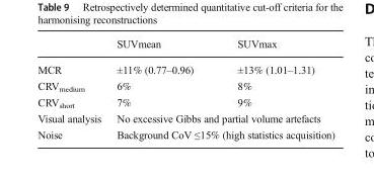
<table><thead><tr><td></td><td>SUVmean</td><td>SUVmax</td></tr></thead><tbody><tr><td>MCR</td><td>±11% (0.77–0.96)</td><td>±13% (1.01–1.31)</td></tr><tr><td>CRV<sub>medium</sub></td><td>6%</td><td>8%</td></tr><tr><td>CRV<sub>short</sub></td><td>7%</td><td>9%</td></tr><tr><td>Visual analysis</td><td colspan="2">No excessive Gibbs and partial volume artefacts</td></tr><tr><td>Noise</td><td colspan="2">Background CoV ≤15% (high statistics acquisition)</td></tr></tbody></table>